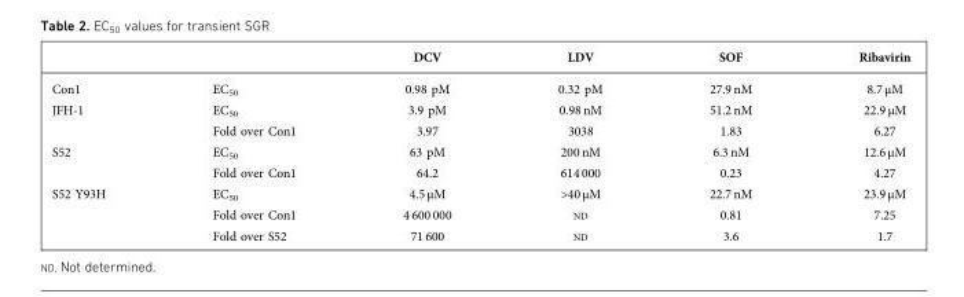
<table><thead><tr><td></td><td></td><td>DCV</td><td>LDV</td><td>SOF</td><td>Ribavirin</td></tr></thead><tbody><tr><td>Con1</td><td>EC<sub>50</sub></td><td>0.98 pM</td><td>0.32 pM</td><td>27.9 nM</td><td>8.7 µM</td></tr><tr><td rowspan="2">JFH-1</td><td>EC<sub>50</sub></td><td>3.9 pM</td><td>0.98 nM</td><td>51.2 nM</td><td>22.9 µM</td></tr><tr><td>Fold over Con1</td><td>3.97</td><td>3038</td><td>1.83</td><td>6.27</td></tr><tr><td rowspan="2">S52</td><td>EC<sub>50</sub></td><td>63 pM</td><td>200 nM</td><td>6.3 nM</td><td>12.6 µM</td></tr><tr><td>Fold over Con1</td><td>64.2</td><td>614 000</td><td>0.23</td><td>4.27</td></tr><tr><td rowspan="3">S52 Y93H</td><td>EC<sub>50</sub></td><td>4.5 µM</td><td>&gt;40 µM</td><td>22.7 nM</td><td>23.9 µM</td></tr><tr><td>Fold over Con1</td><td>4 600 000</td><td>ND</td><td>0.81</td><td>7.25</td></tr><tr><td>Fold over S52</td><td>71 600</td><td>ND</td><td>3.6</td><td>1.7</td></tr></tbody></table>